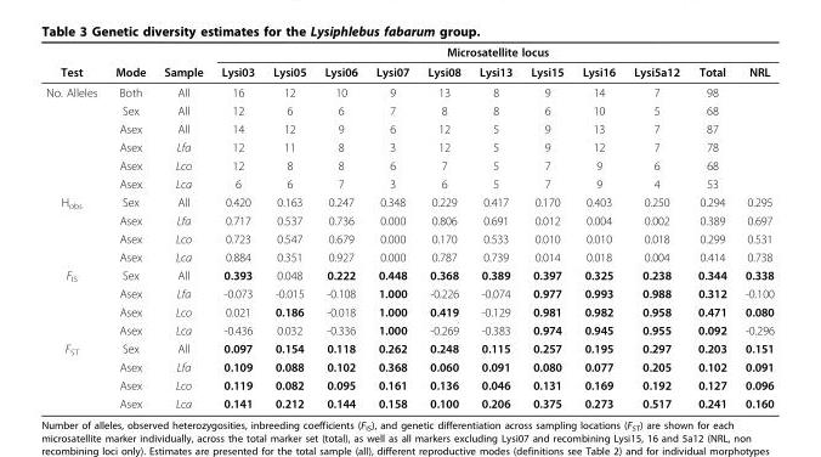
<table><thead><tr><td rowspan="2">Test</td><td rowspan="2">Mode</td><td rowspan="2">Sample</td><td colspan="11">Microsatellite locus</td></tr><tr><td>Lysi03</td><td>Lysi05</td><td>Lysi06</td><td>Lysi07</td><td>Lysi08</td><td>Lysi13</td><td>Lysi15</td><td>Lysi16</td><td>Lysi5a12</td><td>Total</td><td>NRL</td></tr></thead><tbody><tr><td rowspan="6">No. Alleles</td><td>Both</td><td>All</td><td>16</td><td>12</td><td>10</td><td>9</td><td>13</td><td>8</td><td>9</td><td>14</td><td>7</td><td>98</td><td></td></tr><tr><td>Sex</td><td>All</td><td>12</td><td>6</td><td>6</td><td>7</td><td>8</td><td>8</td><td>6</td><td>10</td><td>5</td><td>68</td><td></td></tr><tr><td>Asex</td><td>All</td><td>14</td><td>12</td><td>9</td><td>6</td><td>12</td><td>5</td><td>9</td><td>13</td><td>7</td><td>87</td><td></td></tr><tr><td>Asex</td><td>Lfa</td><td>12</td><td>11</td><td>8</td><td>3</td><td>12</td><td>5</td><td>9</td><td>12</td><td>7</td><td>78</td><td></td></tr><tr><td>Asex</td><td>Lco</td><td>12</td><td>8</td><td>8</td><td>6</td><td>7</td><td>5</td><td>7</td><td>9</td><td>6</td><td>68</td><td></td></tr><tr><td>Asex</td><td>Lca</td><td>6</td><td>6</td><td>7</td><td>3</td><td>6</td><td>5</td><td>7</td><td>9</td><td>4</td><td>53</td><td></td></tr><tr><td rowspan="4">H<sub>obs</sub></td><td>Sex</td><td>All</td><td>0.420</td><td>0.163</td><td>0.247</td><td>0.348</td><td>0.229</td><td>0.417</td><td>0.170</td><td>0.403</td><td>0.250</td><td>0.294</td><td>0.295</td></tr><tr><td>Asex</td><td>Lfa</td><td>0.717</td><td>0.537</td><td>0.736</td><td>0.000</td><td>0.806</td><td>0.691</td><td>0.012</td><td>0.004</td><td>0.002</td><td>0.389</td><td>0.697</td></tr><tr><td>Asex</td><td>Lco</td><td>0.723</td><td>0.547</td><td>0.679</td><td>0.000</td><td>0.170</td><td>0.533</td><td>0.010</td><td>0.010</td><td>0.018</td><td>0.299</td><td>0.531</td></tr><tr><td>Asex</td><td>Lca</td><td>0.884</td><td>0.351</td><td>0.927</td><td>0.000</td><td>0.787</td><td>0.739</td><td>0.014</td><td>0.018</td><td>0.004</td><td>0.414</td><td>0.738</td></tr><tr><td rowspan="4">F<sub>IS</sub></td><td>Sex</td><td>All</td><td>0.393</td><td>0.048</td><td>0.222</td><td>0.448</td><td>0.368</td><td>0.389</td><td>0.397</td><td>0.325</td><td>0.238</td><td>0.344</td><td>0.338</td></tr><tr><td>Asex</td><td>Lfa</td><td>-0.073</td><td>-0.015</td><td>-0.108</td><td>1.000</td><td>-0.226</td><td>-0.074</td><td>0.977</td><td>0.993</td><td>0.988</td><td>0.312</td><td>-0.100</td></tr><tr><td>Asex</td><td>Lco</td><td>0.021</td><td>0.186</td><td>-0.018</td><td>1.000</td><td>0.419</td><td>-0.129</td><td>0.981</td><td>0.982</td><td>0.958</td><td>0.471</td><td>0.080</td></tr><tr><td>Asex</td><td>Lca</td><td>-0.436</td><td>0.032</td><td>-0.336</td><td>1.000</td><td>-0.269</td><td>-0.383</td><td>0.974</td><td>0.945</td><td>0.955</td><td>0.092</td><td>-0.296</td></tr><tr><td rowspan="4">F<sub>ST</sub></td><td>Sex</td><td>All</td><td>0.097</td><td>0.154</td><td>0.118</td><td>0.262</td><td>0.248</td><td>0.115</td><td>0.257</td><td>0.195</td><td>0.297</td><td>0.203</td><td>0.151</td></tr><tr><td>Asex</td><td>Lfa</td><td>0.109</td><td>0.088</td><td>0.102</td><td>0.368</td><td>0.060</td><td>0.091</td><td>0.080</td><td>0.077</td><td>0.205</td><td>0.102</td><td>0.091</td></tr><tr><td>Asex</td><td>Lco</td><td>0.119</td><td>0.082</td><td>0.095</td><td>0.161</td><td>0.136</td><td>0.046</td><td>0.131</td><td>0.169</td><td>0.192</td><td>0.127</td><td>0.096</td></tr><tr><td>Asex</td><td>Lca</td><td>0.141</td><td>0.212</td><td>0.144</td><td>0.158</td><td>0.100</td><td>0.206</td><td>0.375</td><td>0.273</td><td>0.517</td><td>0.241</td><td>0.160</td></tr></tbody></table>